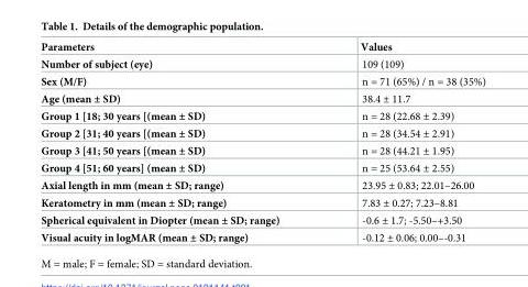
<table><thead><tr><td>Parameters</td><td>Values</td></tr></thead><tbody><tr><td>Number of subject (eye)</td><td>109 (109)</td></tr><tr><td>Sex (M/F)</td><td>n = 71 (65%) / n = 38 (35%)</td></tr><tr><td>Age (mean ± SD)</td><td>38.4 ± 11.7</td></tr><tr><td>Group 1 [18; 30 years [(mean ± SD)</td><td>n = 28 (22.68 ± 2.39)</td></tr><tr><td>Group 2 [31; 40 years [(mean ± SD)</td><td>n = 28 (34.54 ± 2.91)</td></tr><tr><td>Group 3 [41; 50 years [(mean ± SD)</td><td>n = 28 (44.21 ± 1.95)</td></tr><tr><td>Group 4 [51; 60 years] (mean ± SD)</td><td>n = 25 (53.64 ± 2.55)</td></tr><tr><td>Axial length in mm (mean ± SD; range)</td><td>23.95 ± 0.83; 22.01–26.00</td></tr><tr><td>Keratometry in mm (mean ± SD; range)</td><td>7.83 ± 0.27; 7.23–8.81</td></tr><tr><td>Spherical equivalent in Diopter (mean ± SD; range)</td><td>-0.6 ± 1.7; -5.50–+3.50</td></tr><tr><td>Visual acuity in logMAR (mean ± SD; range)</td><td>-0.12 ± 0.06; 0.00–-0.31</td></tr></tbody></table>